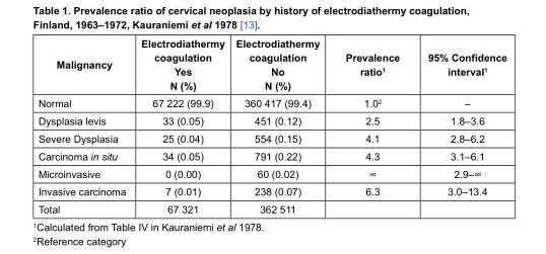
<table><thead><tr><td>Malignancy</td><td>Electrodiathermy coagulation Yes N (%)</td><td>Electrodiathermy coagulation No N (%)</td><td>Prevalence ratio<sup>1</sup></td><td>95% Confidence intervaI<sup>1</sup></td></tr></thead><tbody><tr><td>Normal</td><td>67 222 (99.9)</td><td>360 417 (99.4)</td><td>1.0<sup>2</sup></td><td>–</td></tr><tr><td>Dysplasia levis</td><td>33 (0.05)</td><td>451 (0.12)</td><td>2.5</td><td>1.8–3.6</td></tr><tr><td>Severe Dysplasia</td><td>25 (0.04)</td><td>554 (0.15)</td><td>4.1</td><td>2.8–6.2</td></tr><tr><td>Carcinoma in situ</td><td>34 (0.05)</td><td>791 (0.22)</td><td>4.3</td><td>3.1–6.1</td></tr><tr><td>Microinvasive</td><td>0 (0.00)</td><td>60 (0.02)</td><td>∞</td><td>2.9–∞</td></tr><tr><td>Invasive carcinoma</td><td>7 (0.01)</td><td>238 (0.07)</td><td>6.3</td><td>3.0–13.4</td></tr><tr><td>Total</td><td>67 321</td><td>362 511</td><td></td><td></td></tr></tbody></table>